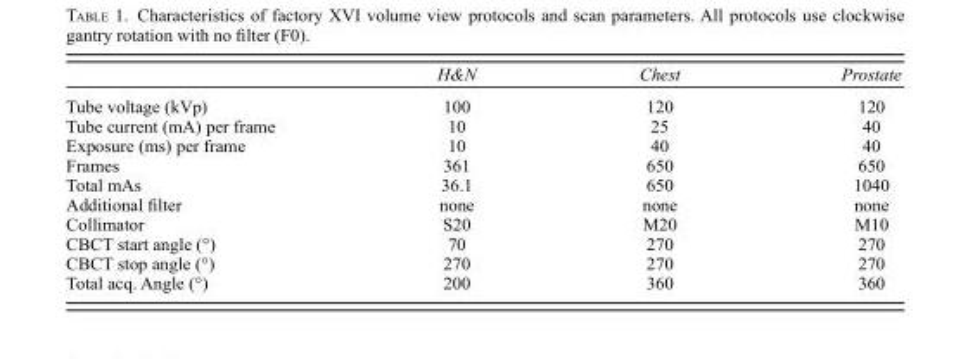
<table><thead><tr><td></td><td>H&amp;N</td><td>Chest</td><td>Prostate</td></tr></thead><tbody><tr><td>Tube voltage (kVp)</td><td>100</td><td>120</td><td>120</td></tr><tr><td>Tube current (mA) per frame</td><td>10</td><td>25</td><td>40</td></tr><tr><td>Exposure (ms) per frame</td><td>10</td><td>40</td><td>40</td></tr><tr><td>Frames</td><td>361</td><td>650</td><td>650</td></tr><tr><td>Total mAs</td><td>36.1</td><td>650</td><td>1040</td></tr><tr><td>Additional filter</td><td>none</td><td>none</td><td>none</td></tr><tr><td>Collimator</td><td>S20</td><td>M20</td><td>M10</td></tr><tr><td>CBCT start angle (°)</td><td>70</td><td>270</td><td>270</td></tr><tr><td>CBCT stop angle (°)</td><td>270</td><td>270</td><td>270</td></tr><tr><td>Total acq. Angle (°)</td><td>200</td><td>360</td><td>360</td></tr></tbody></table>